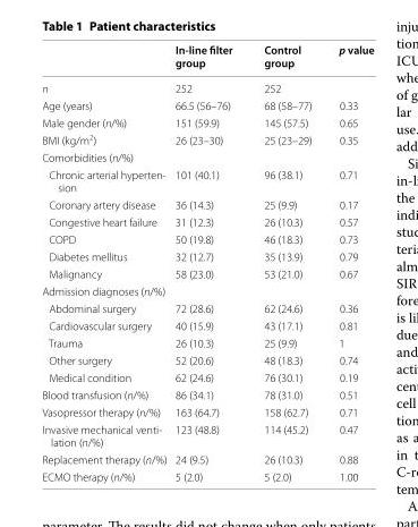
<table><thead><tr><td></td><td>In-line filter group</td><td>Control group</td><td>p value</td></tr></thead><tbody><tr><td>n</td><td>252</td><td>252</td><td></td></tr><tr><td>Age (years)</td><td>66.5 (56–76)</td><td>68 (58–77)</td><td>0.33</td></tr><tr><td>Male gender (n/%)</td><td>151 (59.9)</td><td>145 (57.5)</td><td>0.65</td></tr><tr><td>BMI (kg/m<sup>2</sup>)</td><td>26 (23–30)</td><td>25 (23–29)</td><td>0.35</td></tr><tr><td colspan="4">Comorbidities (n/%)</td></tr><tr><td>Chronic arterial hyperten‑ sion</td><td>101 (40.1)</td><td>96 (38.1)</td><td>0.71</td></tr><tr><td>Coronary artery disease</td><td>36 (14.3)</td><td>25 (9.9)</td><td>0.17</td></tr><tr><td>Congestive heart failure</td><td>31 (12.3)</td><td>26 (10.3)</td><td>0.57</td></tr><tr><td>COPD</td><td>50 (19.8)</td><td>46 (18.3)</td><td>0.73</td></tr><tr><td>Diabetes mellitus</td><td>32 (12.7)</td><td>35 (13.9)</td><td>0.79</td></tr><tr><td>Malignancy</td><td>58 (23.0)</td><td>53 (21.0)</td><td>0.67</td></tr><tr><td colspan="4">Admission diagnoses (n/%)</td></tr><tr><td>Abdominal surgery</td><td>72 (28.6)</td><td>62 (24.6)</td><td>0.36</td></tr><tr><td>Cardiovascular surgery</td><td>40 (15.9)</td><td>43 (17.1)</td><td>0.81</td></tr><tr><td>Trauma</td><td>26 (10.3)</td><td>25 (9.9)</td><td>1</td></tr><tr><td>Other surgery</td><td>52 (20.6)</td><td>48 (18.3)</td><td>0.74</td></tr><tr><td>Medical condition</td><td>62 (24.6)</td><td>76 (30.1)</td><td>0.19</td></tr><tr><td>Blood transfusion (n/%)</td><td>86 (34.1)</td><td>78 (31.0)</td><td>0.51</td></tr><tr><td>Vasopressor therapy (n/%)</td><td>163 (64.7)</td><td>158 (62.7)</td><td>0.71</td></tr><tr><td>Invasive mechanical venti‑ lation (n/%)</td><td>123 (48.8)</td><td>114 (45.2)</td><td>0.47</td></tr><tr><td>Replacement therapy (n/%)</td><td>24 (9.5)</td><td>26 (10.3)</td><td>0.88</td></tr><tr><td>ECMO therapy (n/%)</td><td>5 (2.0)</td><td>5 (2.0)</td><td>1.00</td></tr></tbody></table>